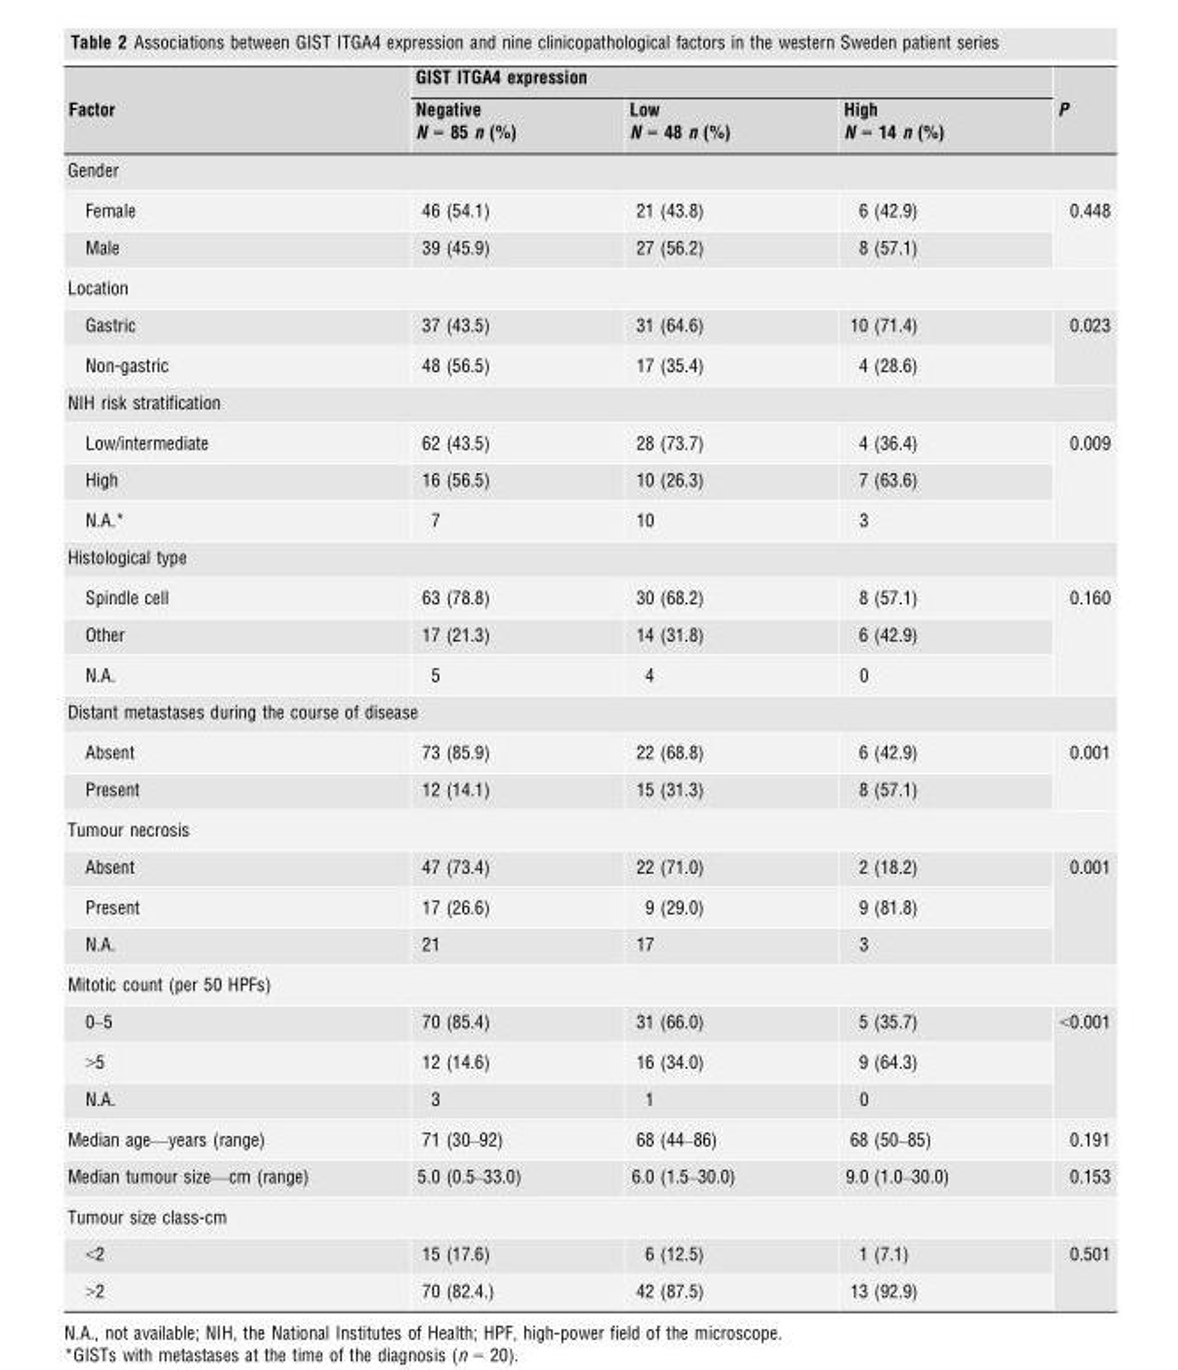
<table><thead><tr><td rowspan="2">Factor</td><td colspan="3">GIST ITGA4 expression</td><td rowspan="2">P</td></tr><tr><td>Negative N = 85 n (%)</td><td>Low N = 48 n (%)</td><td>High N = 14 n (%)</td></tr></thead><tbody><tr><td colspan="5">Gender</td></tr><tr><td>Female</td><td>46 (54.1)</td><td>21 (43.8)</td><td>6 (42.9)</td><td rowspan="2">0.448</td></tr><tr><td>Male</td><td>39 (45.9)</td><td>27 (56.2)</td><td>8 (57.1)</td></tr><tr><td colspan="5">Location</td></tr><tr><td>Gastric</td><td>37 (43.5)</td><td>31 (64.6)</td><td>10 (71.4)</td><td rowspan="2">0.023</td></tr><tr><td>Non-gastric</td><td>48 (56.5)</td><td>17 (35.4)</td><td>4 (28.6)</td></tr><tr><td colspan="5">NIH risk stratification</td></tr><tr><td>Low/intermediate</td><td>62 (43.5)</td><td>28 (73.7)</td><td>4 (36.4)</td><td rowspan="3">0.009</td></tr><tr><td>High</td><td>16 (56.5)</td><td>10 (26.3)</td><td>7 (63.6)</td></tr><tr><td>N.A.*</td><td>7</td><td>10</td><td>3</td></tr><tr><td colspan="5">Histological type</td></tr><tr><td>Spindle cell</td><td>63 (78.8)</td><td>30 (68.2)</td><td>8 (57.1)</td><td rowspan="3">0.160</td></tr><tr><td>Other</td><td>17 (21.3)</td><td>14 (31.8)</td><td>6 (42.9)</td></tr><tr><td>N.A.</td><td>5</td><td>4</td><td>0</td></tr><tr><td colspan="5">Distant metastases during the course of disease</td></tr><tr><td>Absent</td><td>73 (85.9)</td><td>22 (68.8)</td><td>6 (42.9)</td><td rowspan="2">0.001</td></tr><tr><td>Present</td><td>12 (14.1)</td><td>15 (31.3)</td><td>8 (57.1)</td></tr><tr><td colspan="5">Tumour necrosis</td></tr><tr><td>Absent</td><td>47 (73.4)</td><td>22 (71.0)</td><td>2 (18.2)</td><td rowspan="3">0.001</td></tr><tr><td>Present</td><td>17 (26.6)</td><td>9 (29.0)</td><td>9 (81.8)</td></tr><tr><td>N.A.</td><td>21</td><td>17</td><td>3</td></tr><tr><td colspan="5">Mitotic count (per 50 HPFs)</td></tr><tr><td>0–5</td><td>70 (85.4)</td><td>31 (66.0)</td><td>5 (35.7)</td><td rowspan="3">&lt;0.001</td></tr><tr><td>&gt;5</td><td>12 (14.6)</td><td>16 (34.0)</td><td>9 (64.3)</td></tr><tr><td>N.A.</td><td>3</td><td>1</td><td>0</td></tr><tr><td>Median age—years (range)</td><td>71 (30–92)</td><td>68 (44–86)</td><td>68 (50–85)</td><td>0.191</td></tr><tr><td>Median tumour size—cm (range)</td><td>5.0 (0.5–33.0)</td><td>6.0 (1.5–30.0)</td><td>9.0 (1.0–30.0)</td><td>0.153</td></tr><tr><td colspan="5">Tumour size class-cm</td></tr><tr><td>&lt;2</td><td>15 (17.6)</td><td>6 (12.5)</td><td>1 (7.1)</td><td rowspan="2">0.501</td></tr><tr><td>&gt;2</td><td>70 (82.4.)</td><td>42 (87.5)</td><td>13 (92.9)</td></tr></tbody></table>